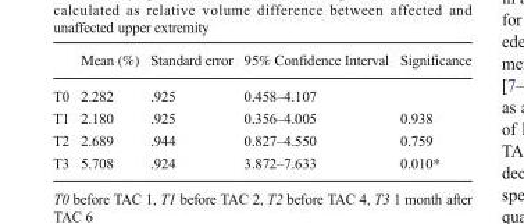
<table><thead><tr><td></td><td>Mean (%)</td><td>Standard error</td><td>95% Confidence Interval</td><td>Significance</td></tr></thead><tbody><tr><td>T0</td><td>2.282</td><td>.925</td><td>0.458–4.107</td><td></td></tr><tr><td>T1</td><td>2.180</td><td>.925</td><td>0.356–4.005</td><td>0.938</td></tr><tr><td>T2</td><td>2.689</td><td>.944</td><td>0.827–4.550</td><td>0.759</td></tr><tr><td>T3</td><td>5.708</td><td>.924</td><td>3.872–7.633</td><td>0.010*</td></tr></tbody></table>